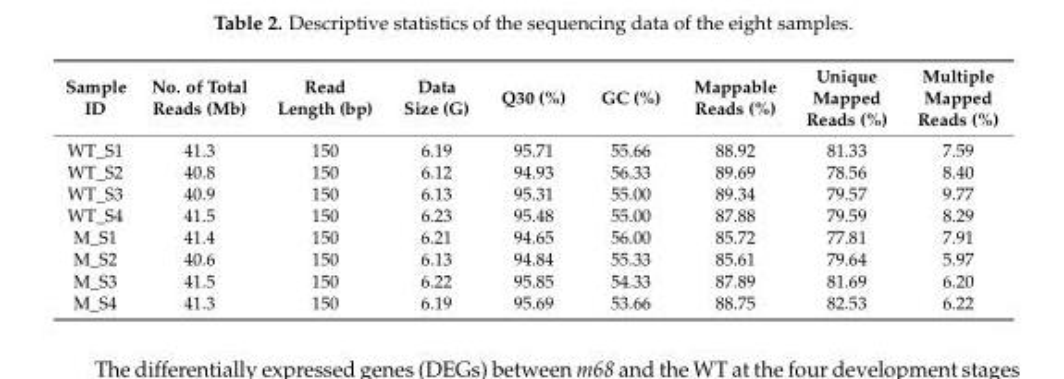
<table><thead><tr><td>Sample ID</td><td>No. of Total Reads (Mb)</td><td>Read Length (bp)</td><td>Data Size (G)</td><td>Q30 (%)</td><td>GC (%)</td><td>Mappable Reads (%)</td><td>Unique Mapped Reads (%)</td><td>Multiple Mapped Reads (%)</td></tr></thead><tbody><tr><td>WT_S1</td><td>41.3</td><td>150</td><td>6.19</td><td>95.71</td><td>55.66</td><td>88.92</td><td>81.33</td><td>7.59</td></tr><tr><td>WT_S2</td><td>40.8</td><td>150</td><td>6.12</td><td>94.93</td><td>56.33</td><td>89.69</td><td>78.56</td><td>8.40</td></tr><tr><td>WT_S3</td><td>40.9</td><td>150</td><td>6.13</td><td>95.31</td><td>55.00</td><td>89.34</td><td>79.57</td><td>9.77</td></tr><tr><td>WT_S4</td><td>41.5</td><td>150</td><td>6.23</td><td>95.48</td><td>55.00</td><td>87.88</td><td>79.59</td><td>8.29</td></tr><tr><td>M_S1</td><td>41.4</td><td>150</td><td>6.21</td><td>94.65</td><td>56.00</td><td>85.72</td><td>77.81</td><td>7.91</td></tr><tr><td>M_S2</td><td>40.6</td><td>150</td><td>6.13</td><td>94.84</td><td>55.33</td><td>85.61</td><td>79.64</td><td>5.97</td></tr><tr><td>M_S3</td><td>41.5</td><td>150</td><td>6.22</td><td>95.85</td><td>54.33</td><td>87.89</td><td>81.69</td><td>6.20</td></tr><tr><td>M_S4</td><td>41.3</td><td>150</td><td>6.19</td><td>95.69</td><td>53.66</td><td>88.75</td><td>82.53</td><td>6.22</td></tr></tbody></table>